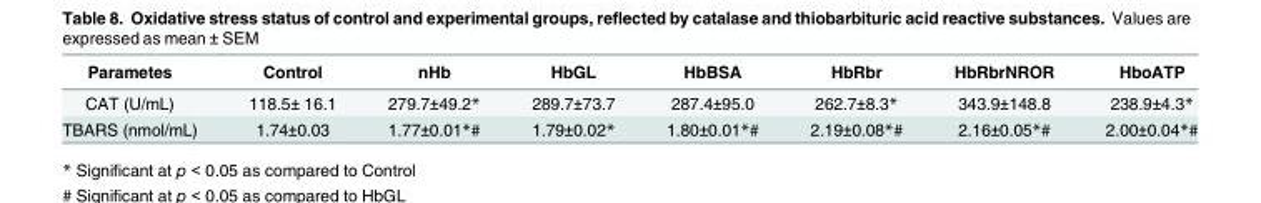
<table><thead><tr><td>Parametes</td><td>Control</td><td>nHb</td><td>HbGL</td><td>HbBSA</td><td>HbRbr</td><td>HbRbrNROR</td><td>HboATP</td></tr></thead><tbody><tr><td>CAT (U/mL)</td><td>118.5± 16.1</td><td>279.7±49.2*</td><td>289.7±73.7</td><td>287.4±95.0</td><td>262.7±8.3*</td><td>343.9±148.8</td><td>238.9±4.3*</td></tr><tr><td>TBARS (nmol/mL)</td><td>1.74±0.03</td><td>1.77±0.01*#</td><td>1.79±0.02*</td><td>1.80±0.01*#</td><td>2.19±0.08*#</td><td>2.16±0.05*#</td><td>2.00±0.04*#</td></tr></tbody></table>